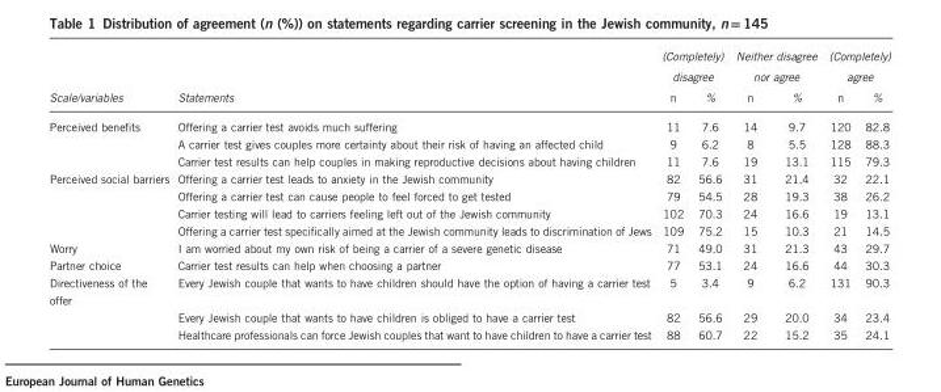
<table><thead><tr><td rowspan="2">Scale/variables</td><td rowspan="2">Statements</td><td colspan="2">(Completely) disagree</td><td colspan="2">Neither disagree nor agree</td><td colspan="2">(Completely) agree</td></tr><tr><td>n</td><td>%</td><td>n</td><td>%</td><td>n</td><td>%</td></tr></thead><tbody><tr><td rowspan="3">Perceived benefits</td><td>Offering a carrier test avoids much suffering</td><td>11</td><td>7.6</td><td>14</td><td>9.7</td><td>120</td><td>82.8</td></tr><tr><td>A carrier test gives couples more certainty about their risk of having an affected child</td><td>9</td><td>6.2</td><td>8</td><td>5.5</td><td>128</td><td>88.3</td></tr><tr><td>Carrier test results can help couples in making reproductive decisions about having children</td><td>11</td><td>7.6</td><td>19</td><td>13.1</td><td>115</td><td>79.3</td></tr><tr><td rowspan="4">Perceived social barriers</td><td>Offering a carrier test leads to anxiety in the Jewish community</td><td>82</td><td>56.6</td><td>31</td><td>21.4</td><td>32</td><td>22.1</td></tr><tr><td>Offering a carrier test can cause people to feel forced to get tested</td><td>79</td><td>54.5</td><td>28</td><td>19.3</td><td>38</td><td>26.2</td></tr><tr><td>Carrier testing will lead to carriers feeling left out of the Jewish community</td><td>102</td><td>70.3</td><td>24</td><td>16.6</td><td>19</td><td>13.1</td></tr><tr><td>Offering a carrier test specifically aimed at the Jewish community leads to discrimination of Jews</td><td>109</td><td>75.2</td><td>15</td><td>10.3</td><td>21</td><td>14.5</td></tr><tr><td>Worry</td><td>I am worried about my own risk of being a carrier of a severe genetic disease</td><td>71</td><td>49.0</td><td>31</td><td>21.3</td><td>43</td><td>29.7</td></tr><tr><td>Partner choice</td><td>Carrier test results can help when choosing a partner</td><td>77</td><td>53.1</td><td>24</td><td>16.6</td><td>44</td><td>30.3</td></tr><tr><td rowspan="3">Directiveness of the offer</td><td>Every Jewish couple that wants to have children should have the option of having a carrier test</td><td>5</td><td>3.4</td><td>9</td><td>6.2</td><td>131</td><td>90.3</td></tr><tr><td>Every Jewish couple that wants to have children is obliged to have a carrier test</td><td>82</td><td>56.6</td><td>29</td><td>20.0</td><td>34</td><td>23.4</td></tr><tr><td>Healthcare professionals can force Jewish couples that want to have children to have a carrier test</td><td>88</td><td>60.7</td><td>22</td><td>15.2</td><td>35</td><td>24.1</td></tr></tbody></table>